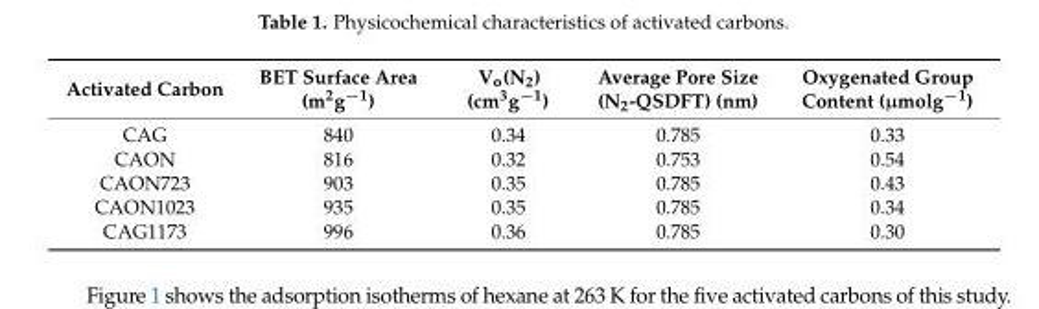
<table><thead><tr><td>Activated Carbon</td><td>BET Surface Area (m<sup>2</sup>g<sup>−1</sup>)</td><td>V<sub>o</sub>(N<sub>2</sub>) (cm<sup>3</sup>g<sup>−1</sup>)</td><td>Average Pore Size (N<sub>2</sub>-QSDFT) (nm)</td><td>Oxygenated Group Content (µmolg<sup>−1</sup>)</td></tr></thead><tbody><tr><td>CAG</td><td>840</td><td>0.34</td><td>0.785</td><td>0.33</td></tr><tr><td>CAON</td><td>816</td><td>0.32</td><td>0.753</td><td>0.54</td></tr><tr><td>CAON723</td><td>903</td><td>0.35</td><td>0.785</td><td>0.43</td></tr><tr><td>CAON1023</td><td>935</td><td>0.35</td><td>0.785</td><td>0.34</td></tr><tr><td>CAG1173</td><td>996</td><td>0.36</td><td>0.785</td><td>0.30</td></tr></tbody></table>